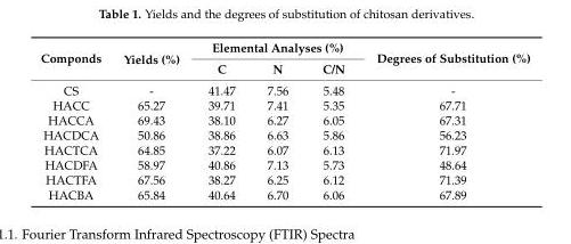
<table><thead><tr><td rowspan="2">Componds</td><td rowspan="2">Yields (%)</td><td colspan="3">Elemental Analyses (%)</td><td rowspan="2">Degrees of Substitution (%)</td></tr><tr><td>C</td><td>N</td><td>C/N</td></tr></thead><tbody><tr><td>CS</td><td>-</td><td>41.47</td><td>7.56</td><td>5.48</td><td>-</td></tr><tr><td>HACC</td><td>65.27</td><td>39.71</td><td>7.41</td><td>5.35</td><td>67.71</td></tr><tr><td>HACCA</td><td>69.43</td><td>38.10</td><td>6.27</td><td>6.05</td><td>67.31</td></tr><tr><td>HACDCA</td><td>50.86</td><td>38.86</td><td>6.63</td><td>5.86</td><td>56.23</td></tr><tr><td>HACTCA</td><td>64.85</td><td>37.22</td><td>6.07</td><td>6.13</td><td>71.97</td></tr><tr><td>HACDFA</td><td>58.97</td><td>40.86</td><td>7.13</td><td>5.73</td><td>48.64</td></tr><tr><td>HACTFA</td><td>67.56</td><td>38.27</td><td>6.25</td><td>6.12</td><td>71.39</td></tr><tr><td>HACBA</td><td>65.84</td><td>40.64</td><td>6.70</td><td>6.06</td><td>67.89</td></tr></tbody></table>